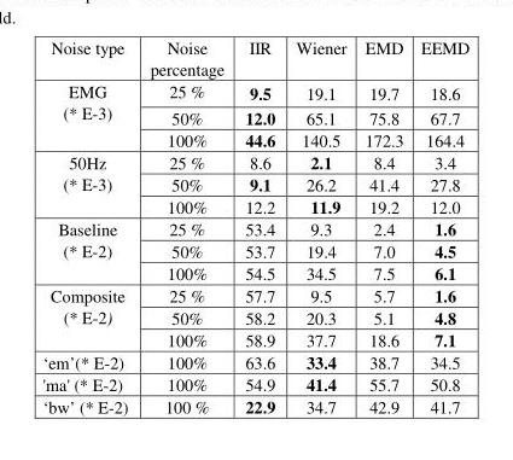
<table><thead><tr><td>Noise type</td><td>Noise percentage</td><td>IIR</td><td>Wiener</td><td>EMD</td><td>EEMD</td></tr></thead><tbody><tr><td rowspan="3">EMG (* E-3)</td><td>25 %</td><td>9.5</td><td>19.1</td><td>19.7</td><td>18.6</td></tr><tr><td>50%</td><td>12.0</td><td>65.1</td><td>75.8</td><td>67.7</td></tr><tr><td>100%</td><td>44.6</td><td>140.5</td><td>172.3</td><td>164.4</td></tr><tr><td rowspan="3">50Hz (* E-3)</td><td>25 %</td><td>8.6</td><td>2.1</td><td>8.4</td><td>3.4</td></tr><tr><td>50%</td><td>9.1</td><td>26.2</td><td>41.4</td><td>27.8</td></tr><tr><td>100%</td><td>12.2</td><td>11.9</td><td>19.2</td><td>12.0</td></tr><tr><td rowspan="3">Baseline (* E-2)</td><td>25 %</td><td>53.4</td><td>9.3</td><td>2.4</td><td>1.6</td></tr><tr><td>50%</td><td>53.7</td><td>19.4</td><td>7.0</td><td>4.5</td></tr><tr><td>100%</td><td>54.5</td><td>34.5</td><td>7.5</td><td>6.1</td></tr><tr><td rowspan="3">Composite (* E-2)</td><td>25 %</td><td>57.7</td><td>9.5</td><td>5.7</td><td>1.6</td></tr><tr><td>50%</td><td>58.2</td><td>20.3</td><td>5.1</td><td>4.8</td></tr><tr><td>100%</td><td>58.9</td><td>37.7</td><td>18.6</td><td>7.1</td></tr><tr><td>‘em’(* E-2)</td><td>100%</td><td>63.6</td><td>33.4</td><td>38.7</td><td>34.5</td></tr><tr><td>&#x27;ma&#x27; (* E-2)</td><td>100%</td><td>54.9</td><td>41.4</td><td>55.7</td><td>50.8</td></tr><tr><td>‘bw’ (* E-2)</td><td>100 %</td><td>22.9</td><td>34.7</td><td>42.9</td><td>41.7</td></tr></tbody></table>